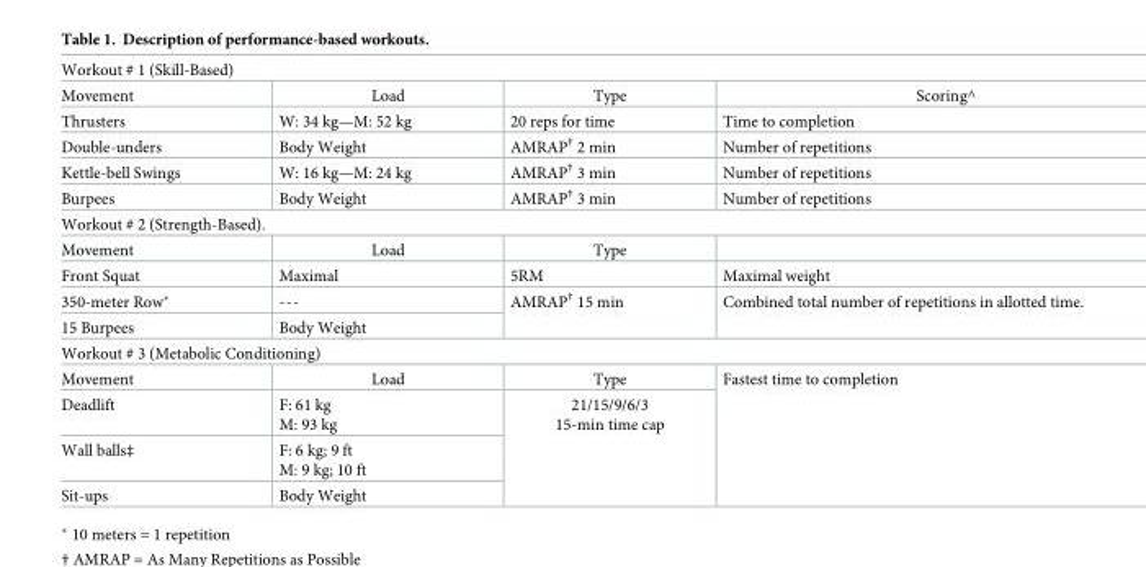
<table><tbody><tr><td colspan="4">Workout # 1 (Skill-Based)</td></tr><tr><td>Movement</td><td>Load</td><td>Type</td><td>Scoring^</td></tr><tr><td>Thrusters</td><td>W: 34 kg—M: 52 kg</td><td>20 reps for time</td><td>Time to completion</td></tr><tr><td>Double-unders</td><td>Body Weight</td><td>AMRAP<sup>†</sup> 2 min</td><td>Number of repetitions</td></tr><tr><td>Kettle-bell Swings</td><td>W: 16 kg—M: 24 kg</td><td>AMRAP<sup>†</sup> 3 min</td><td>Number of repetitions</td></tr><tr><td>Burpees</td><td>Body Weight</td><td>AMRAP<sup>†</sup> 3 min</td><td>Number of repetitions</td></tr><tr><td colspan="4">Workout # 2 (Strength-Based).</td></tr><tr><td>Movement</td><td>Load</td><td>Type</td><td></td></tr><tr><td>Front Squat</td><td>Maximal</td><td>5RM</td><td>Maximal weight</td></tr><tr><td>350-meter Row*</td><td>---</td><td rowspan="2">AMRAP<sup>†</sup> 15 min</td><td rowspan="2">Combined total number of repetitions in allotted time.</td></tr><tr><td>15 Burpees</td><td>Body Weight</td></tr><tr><td colspan="4">Workout # 3 (Metabolic Conditioning)</td></tr><tr><td>Movement</td><td>Load</td><td>Type</td><td rowspan="4">Fastest time to completion</td></tr><tr><td>Deadlift</td><td>F: 61 kg M: 93 kg</td><td rowspan="3">21/15/9/6/3 15-min time cap</td></tr><tr><td>Wall balls‡</td><td>F: 6 kg; 9 ft M: 9 kg; 10 ft</td></tr><tr><td>Sit-ups</td><td>Body Weight</td></tr></tbody></table>